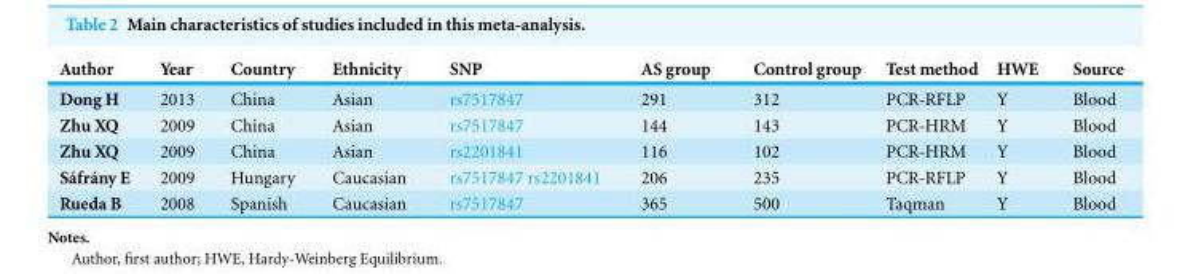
<table><thead><tr><td>Author</td><td>Year</td><td>Country</td><td>Ethnicity</td><td>SNP</td><td>AS group</td><td>Control group</td><td>Test method</td><td>HWE</td><td>Source</td></tr></thead><tbody><tr><td>Dong H</td><td>2013</td><td>China</td><td>Asian</td><td>rs7517847</td><td>291</td><td>312</td><td>PCR-RFLP</td><td>Y</td><td>Blood</td></tr><tr><td>Zhu XQ</td><td>2009</td><td>China</td><td>Asian</td><td>rs7517847</td><td>144</td><td>143</td><td>PCR-HRM</td><td>Y</td><td>Blood</td></tr><tr><td>Zhu XQ</td><td>2009</td><td>China</td><td>Asian</td><td>rs2201841</td><td>116</td><td>102</td><td>PCR-HRM</td><td>Y</td><td>Blood</td></tr><tr><td>S´afr´any E</td><td>2009</td><td>Hungary</td><td>Caucasian</td><td>rs7517847 rs2201841</td><td>206</td><td>235</td><td>PCR-RFLP</td><td>Y</td><td>Blood</td></tr><tr><td>Rueda B</td><td>2008</td><td>Spanish</td><td>Caucasian</td><td>rs7517847</td><td>365</td><td>500</td><td>Taqman</td><td>Y</td><td>Blood</td></tr></tbody></table>